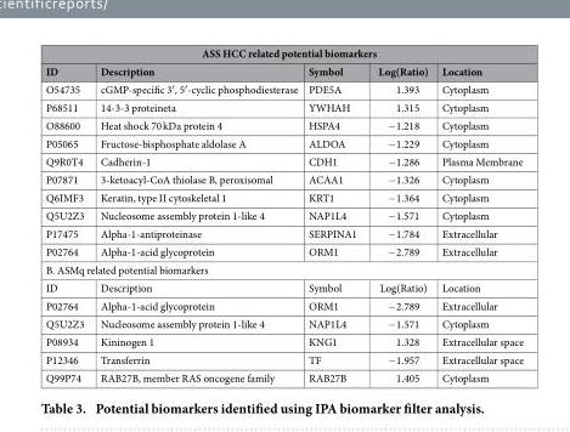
<table><thead><tr><td colspan="5">ASS HCC related potential biomarkers</td></tr><tr><td>ID</td><td>Description</td><td>Symbol</td><td>Log(Ratio)</td><td>Location</td></tr></thead><tbody><tr><td>O54735</td><td>cGMP-specific 3′, 5′-cyclic phosphodiesterase</td><td>PDE5A</td><td>1.393</td><td>Cytoplasm</td></tr><tr><td>P68511</td><td>14-3-3 proteineta</td><td>YWHAH</td><td>1.315</td><td>Cytoplasm</td></tr><tr><td>O88600</td><td>Heat shock 70 kDa protein 4</td><td>HSPA4</td><td>−1.218</td><td>Cytoplasm</td></tr><tr><td>P05065</td><td>Fructose-bisphosphate aldolase A</td><td>ALDOA</td><td>−1.229</td><td>Cytoplasm</td></tr><tr><td>Q9R0T4</td><td>Cadherin-1</td><td>CDH1</td><td>−1.286</td><td>Plasma Membrane</td></tr><tr><td>P07871</td><td>3-ketoacyl-CoA thiolase B, peroxisomal</td><td>ACAA1</td><td>−1.326</td><td>Cytoplasm</td></tr><tr><td>Q6IMF3</td><td>Keratin, type II cytoskeletal 1</td><td>KRT1</td><td>−1.364</td><td>Cytoplasm</td></tr><tr><td>Q5U2Z3</td><td>Nucleosome assembly protein 1-like 4</td><td>NAP1L4</td><td>−1.571</td><td>Cytoplasm</td></tr><tr><td>P17475</td><td>Alpha-1-antiproteinase</td><td>SERPINA1</td><td>−1.784</td><td>Extracellular</td></tr><tr><td>P02764</td><td>Alpha-1-acid glycoprotein</td><td>ORM1</td><td>−2.789</td><td>Extracellular</td></tr><tr><td colspan="5">B. ASMq related potential biomarkers</td></tr><tr><td>ID</td><td>Description</td><td>Symbol</td><td>Log(Ratio)</td><td>Location</td></tr><tr><td>P02764</td><td>Alpha-1-acid glycoprotein</td><td>ORM1</td><td>−2.789</td><td>Extracellular</td></tr><tr><td>Q5U2Z3</td><td>Nucleosome assembly protein 1-like 4</td><td>NAP1L4</td><td>−1.571</td><td>Cytoplasm</td></tr><tr><td>P08934</td><td>Kininogen 1</td><td>KNG1</td><td>1.328</td><td>Extracellular space</td></tr><tr><td>P12346</td><td>Transferrin</td><td>TF</td><td>−1.957</td><td>Extracellular space</td></tr><tr><td>Q99P74</td><td>RAB27B, member RAS oncogene family</td><td>RAB27B</td><td>1.405</td><td>Cytoplasm</td></tr></tbody></table>